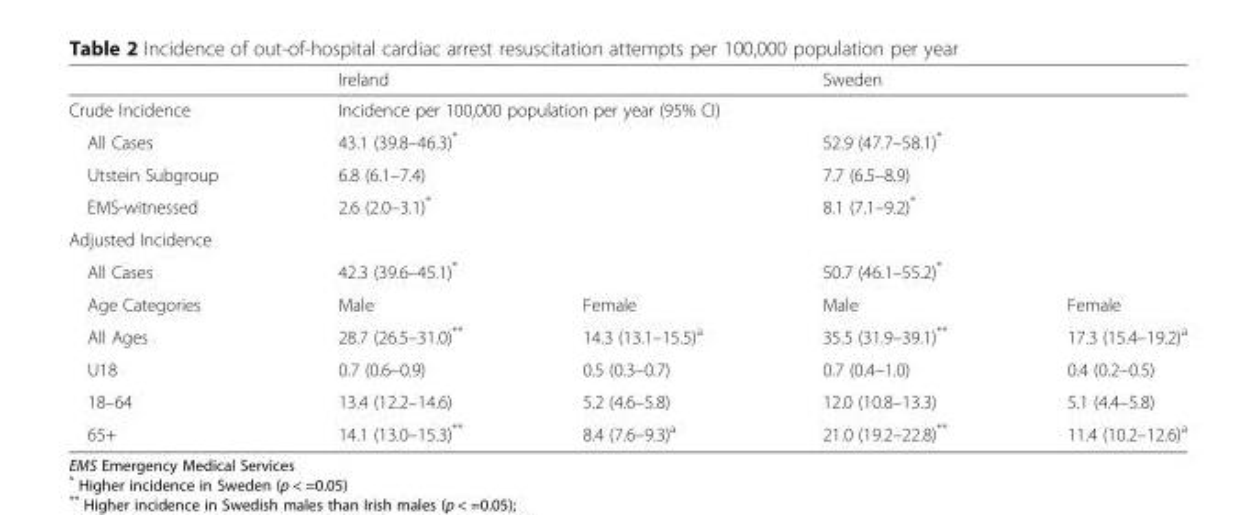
<table><thead><tr><td></td><td colspan="2">Ireland</td><td colspan="2">Sweden</td></tr></thead><tbody><tr><td>Crude Incidence</td><td colspan="4">Incidence per 100,000 population per year (95% CI)</td></tr><tr><td>All Cases</td><td colspan="2">43.1 (39.8–46.3)*</td><td colspan="2">52.9 (47.7–58.1)*</td></tr><tr><td>Utstein Subgroup</td><td colspan="2">6.8 (6.1–7.4)</td><td colspan="2">7.7 (6.5–8.9)</td></tr><tr><td>EMS-witnessed</td><td colspan="2">2.6 (2.0–3.1)*</td><td colspan="2">8.1 (7.1–9.2)*</td></tr><tr><td colspan="5">Adjusted Incidence</td></tr><tr><td>All Cases</td><td colspan="2">42.3 (39.6–45.1)*</td><td colspan="2">50.7 (46.1–55.2)*</td></tr><tr><td>Age Categories</td><td>Male</td><td>Female</td><td>Male</td><td>Female</td></tr><tr><td>All Ages</td><td>28.7 (26.5–31.0)**</td><td>14.3 (13.1–15.5)<sup>a</sup></td><td>35.5 (31.9–39.1)**</td><td>17.3 (15.4–19.2)<sup>a</sup></td></tr><tr><td>U18</td><td>0.7 (0.6–0.9)</td><td>0.5 (0.3–0.7)</td><td>0.7 (0.4–1.0)</td><td>0.4 (0.2–0.5)</td></tr><tr><td>18–64</td><td>13.4 (12.2–14.6)</td><td>5.2 (4.6–5.8)</td><td>12.0 (10.8–13.3)</td><td>5.1 (4.4–5.8)</td></tr><tr><td>65+</td><td>14.1 (13.0–15.3)**</td><td>8.4 (7.6–9.3)<sup>a</sup></td><td>21.0 (19.2–22.8)**</td><td>11.4 (10.2–12.6)<sup>a</sup></td></tr></tbody></table>